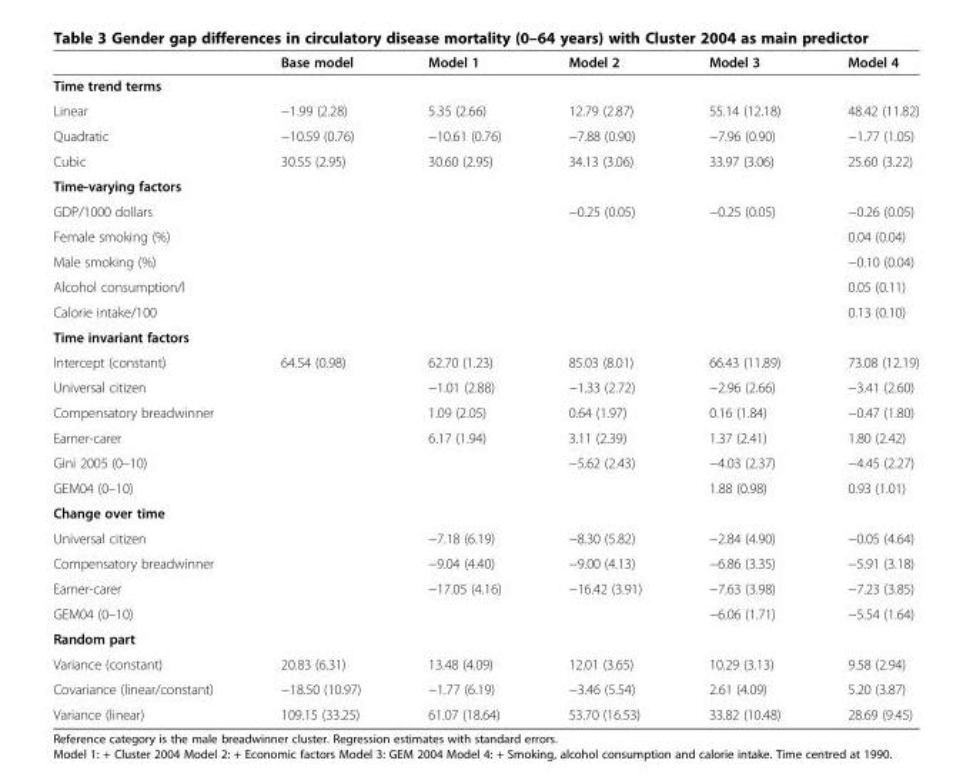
<table><thead><tr><td></td><td>Base model</td><td>Model 1</td><td>Model 2</td><td>Model 3</td><td>Model 4</td></tr></thead><tbody><tr><td colspan="6">Time trend terms</td></tr><tr><td>Linear</td><td>−1.99 (2.28)</td><td>5.35 (2.66)</td><td>12.79 (2.87)</td><td>55.14 (12.18)</td><td>48.42 (11.82)</td></tr><tr><td>Quadratic</td><td>−10.59 (0.76)</td><td>−10.61 (0.76)</td><td>−7.88 (0.90)</td><td>−7.96 (0.90)</td><td>−1.77 (1.05)</td></tr><tr><td>Cubic</td><td>30.55 (2.95)</td><td>30.60 (2.95)</td><td>34.13 (3.06)</td><td>33.97 (3.06)</td><td>25.60 (3.22)</td></tr><tr><td colspan="6">Time-varying factors</td></tr><tr><td>GDP/1000 dollars</td><td></td><td></td><td>−0.25 (0.05)</td><td>−0.25 (0.05)</td><td>−0.26 (0.05)</td></tr><tr><td>Female smoking (%)</td><td></td><td></td><td></td><td></td><td>0.04 (0.04)</td></tr><tr><td>Male smoking (%)</td><td></td><td></td><td></td><td></td><td>−0.10 (0.04)</td></tr><tr><td>Alcohol consumption/l</td><td></td><td></td><td></td><td></td><td>0.05 (0.11)</td></tr><tr><td>Calorie intake/100</td><td></td><td></td><td></td><td></td><td>0.13 (0.10)</td></tr><tr><td colspan="6">Time invariant factors</td></tr><tr><td>Intercept (constant)</td><td>64.54 (0.98)</td><td>62.70 (1.23)</td><td>85.03 (8.01)</td><td>66.43 (11.89)</td><td>73.08 (12.19)</td></tr><tr><td>Universal citizen</td><td></td><td>−1.01 (2.88)</td><td>−1.33 (2.72)</td><td>−2.96 (2.66)</td><td>−3.41 (2.60)</td></tr><tr><td>Compensatory breadwinner</td><td></td><td>1.09 (2.05)</td><td>0.64 (1.97)</td><td>0.16 (1.84)</td><td>−0.47 (1.80)</td></tr><tr><td>Earner-carer</td><td></td><td>6.17 (1.94)</td><td>3.11 (2.39)</td><td>1.37 (2.41)</td><td>1.80 (2.42)</td></tr><tr><td>Gini 2005 (0–10)</td><td></td><td></td><td>−5.62 (2.43)</td><td>−4.03 (2.37)</td><td>−4.45 (2.27)</td></tr><tr><td>GEM04 (0–10)</td><td></td><td></td><td></td><td>1.88 (0.98)</td><td>0.93 (1.01)</td></tr><tr><td colspan="6">Change over time</td></tr><tr><td>Universal citizen</td><td></td><td>−7.18 (6.19)</td><td>−8.30 (5.82)</td><td>−2.84 (4.90)</td><td>−0.05 (4.64)</td></tr><tr><td>Compensatory breadwinner</td><td></td><td>−9.04 (4.40)</td><td>−9.00 (4.13)</td><td>−6.86 (3.35)</td><td>−5.91 (3.18)</td></tr><tr><td>Earner-carer</td><td></td><td>−17.05 (4.16)</td><td>−16.42 (3.91)</td><td>−7.63 (3.98)</td><td>−7.23 (3.85)</td></tr><tr><td>GEM04 (0–10)</td><td></td><td></td><td></td><td>−6.06 (1.71)</td><td>−5.54 (1.64)</td></tr><tr><td colspan="6">Random part</td></tr><tr><td>Variance (constant)</td><td>20.83 (6.31)</td><td>13.48 (4.09)</td><td>12.01 (3.65)</td><td>10.29 (3.13)</td><td>9.58 (2.94)</td></tr><tr><td>Covariance (linear/constant)</td><td>−18.50 (10.97)</td><td>−1.77 (6.19)</td><td>−3.46 (5.54)</td><td>2.61 (4.09)</td><td>5.20 (3.87)</td></tr><tr><td>Variance (linear)</td><td>109.15 (33.25)</td><td>61.07 (18.64)</td><td>53.70 (16.53)</td><td>33.82 (10.48)</td><td>28.69 (9.45)</td></tr></tbody></table>